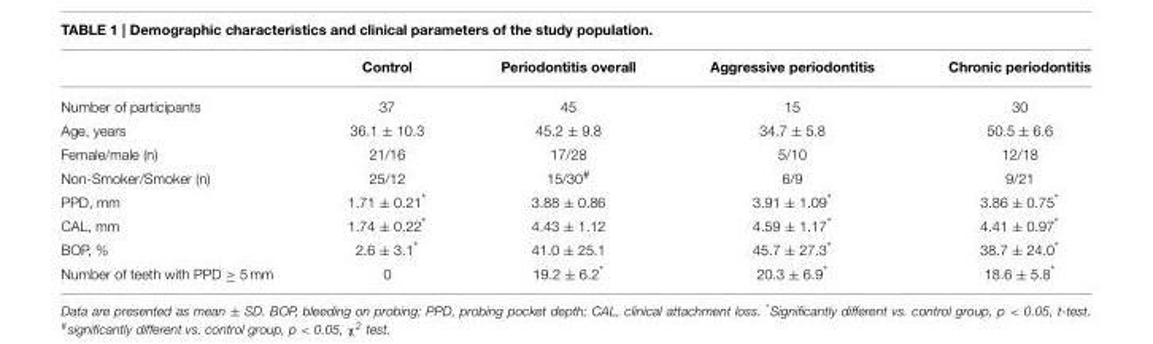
<table><thead><tr><td></td><td>Control</td><td>Periodontitis overall</td><td>Aggressive periodontitis</td><td>Chronic periodontitis</td></tr></thead><tbody><tr><td>Number of participants</td><td>37</td><td>45</td><td>15</td><td>30</td></tr><tr><td>Age, years</td><td>36.1 ± 10.3</td><td>45.2 ± 9.8</td><td>34.7 ± 5.8</td><td>50.5 ± 6.6</td></tr><tr><td>Female/male (n)</td><td>21/16</td><td>17/28</td><td>5/10</td><td>12/18</td></tr><tr><td>Non-Smoker/Smoker (n)</td><td>25/12</td><td>15/30<sup>#</sup></td><td>6/9</td><td>9/21</td></tr><tr><td>PPD, mm</td><td>1.71 ± 0.21*</td><td>3.88 ± 0.86</td><td>3.91 ± 1.09*</td><td>3.86 ± 0.75*</td></tr><tr><td>CAL, mm</td><td>1.74 ± 0.22*</td><td>4.43 ± 1.12</td><td>4.59 ± 1.17*</td><td>4.41 ± 0.97*</td></tr><tr><td>BOP, %</td><td>2.6 ± 3.1*</td><td>41.0 ± 25.1</td><td>45.7 ± 27.3*</td><td>38.7 ± 24.0*</td></tr><tr><td>Number of teeth with PPD ≥ 5 mm</td><td>0</td><td>19.2 ± 6.2*</td><td>20.3 ± 6.9*</td><td>18.6 ± 5.8*</td></tr></tbody></table>